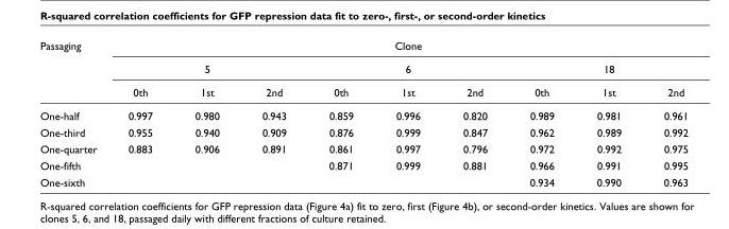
<table><thead><tr><td rowspan="3">Passaging</td><td colspan="9">Clone</td></tr><tr><td colspan="3">5</td><td colspan="3">6</td><td colspan="3">18</td></tr><tr><td>0th</td><td>1st</td><td>2nd</td><td>0th</td><td>1st</td><td>2nd</td><td>0th</td><td>1st</td><td>2nd</td></tr></thead><tbody><tr><td>One-half</td><td>0.997</td><td>0.980</td><td>0.943</td><td>0.859</td><td>0.996</td><td>0.820</td><td>0.989</td><td>0.981</td><td>0.961</td></tr><tr><td>One-third</td><td>0.955</td><td>0.940</td><td>0.909</td><td>0.876</td><td>0.999</td><td>0.847</td><td>0.962</td><td>0.989</td><td>0.992</td></tr><tr><td>One-quarter</td><td>0.883</td><td>0.906</td><td>0.891</td><td>0.861</td><td>0.997</td><td>0.796</td><td>0.972</td><td>0.992</td><td>0.975</td></tr><tr><td>One-fifth</td><td></td><td></td><td></td><td>0.871</td><td>0.999</td><td>0.881</td><td>0.966</td><td>0.991</td><td>0.995</td></tr><tr><td>One-sixth</td><td></td><td></td><td></td><td></td><td></td><td></td><td>0.934</td><td>0.990</td><td>0.963</td></tr></tbody></table>